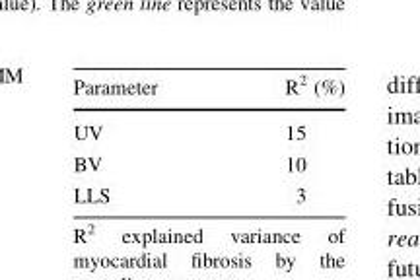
<table><thead><tr><td>Parameter</td><td>R<sup>2</sup> (%)</td></tr></thead><tbody><tr><td>UV</td><td>15</td></tr><tr><td>BV</td><td>10</td></tr><tr><td>LLS</td><td>3</td></tr></tbody></table>